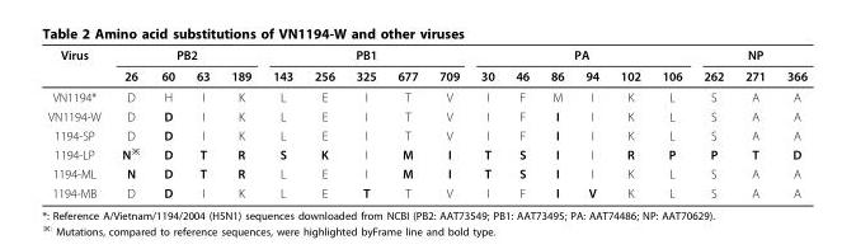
<table><thead><tr><td rowspan="2">Virus</td><td colspan="4">PB2</td><td colspan="5">PB1</td><td colspan="6">PA</td><td colspan="3">NP</td></tr><tr><td>26</td><td>60</td><td>63</td><td>189</td><td>143</td><td>256</td><td>325</td><td>677</td><td>709</td><td>30</td><td>46</td><td>86</td><td>94</td><td>102</td><td>106</td><td>262</td><td>271</td><td>366</td></tr></thead><tbody><tr><td>VN1194*</td><td>D</td><td>H</td><td>I</td><td>K</td><td>L</td><td>E</td><td>I</td><td>T</td><td>V</td><td>I</td><td>F</td><td>M</td><td>I</td><td>K</td><td>L</td><td>S</td><td>A</td><td>A</td></tr><tr><td>VN1194-W</td><td>D</td><td>D</td><td>I</td><td>K</td><td>L</td><td>E</td><td>I</td><td>T</td><td>V</td><td>I</td><td>F</td><td>I</td><td>I</td><td>K</td><td>L</td><td>S</td><td>A</td><td>A</td></tr><tr><td>1194-SP</td><td>D</td><td>D</td><td>I</td><td>K</td><td>L</td><td>E</td><td>I</td><td>T</td><td>V</td><td>I</td><td>F</td><td>I</td><td>I</td><td>K</td><td>L</td><td>S</td><td>A</td><td>A</td></tr><tr><td>1194-LP</td><td>N<sup>※</sup></td><td>D</td><td>T</td><td>R</td><td>S</td><td>K</td><td>I</td><td>M</td><td>I</td><td>T</td><td>S</td><td>I</td><td>I</td><td>R</td><td>P</td><td>P</td><td>T</td><td>D</td></tr><tr><td>1194-ML</td><td>N</td><td>D</td><td>T</td><td>R</td><td>L</td><td>E</td><td>I</td><td>M</td><td>I</td><td>T</td><td>S</td><td>I</td><td>I</td><td>K</td><td>L</td><td>S</td><td>A</td><td>A</td></tr><tr><td>1194-MB</td><td>D</td><td>D</td><td>I</td><td>K</td><td>L</td><td>E</td><td>T</td><td>T</td><td>V</td><td>I</td><td>F</td><td>I</td><td>V</td><td>K</td><td>L</td><td>S</td><td>A</td><td>A</td></tr></tbody></table>